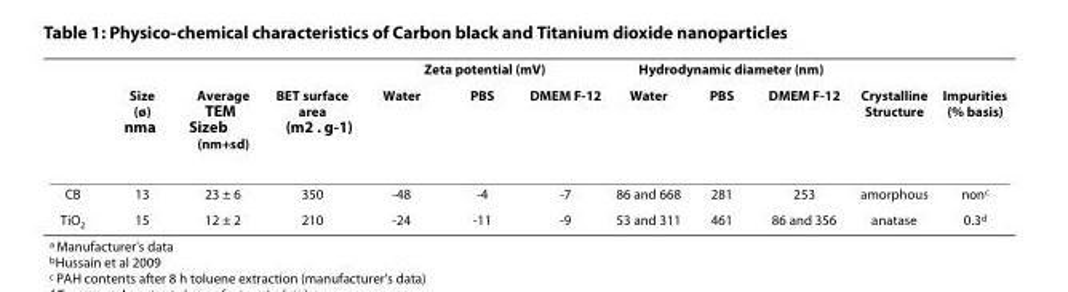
<table><thead><tr><td rowspan="2"></td><td rowspan="2">Size (ø) nm<sup>a</sup></td><td rowspan="2">Average TEM Size<sup>b</sup> (nm+sd)</td><td rowspan="2">BET surface area (m<sup>2</sup> . g<sup>-1</sup>)</td><td colspan="3">Zeta potential (mV)</td><td colspan="3">Hydrodynamic diameter (nm)</td><td rowspan="2">Crystalline Structure</td><td rowspan="2">Impurities (% basis)</td></tr><tr><td>Water</td><td>PBS</td><td>DMEM F-12</td><td>Water</td><td>PBS</td><td>DMEM F-12</td></tr></thead><tbody><tr><td>CB</td><td>13</td><td>23 ± 6</td><td>350</td><td>-48</td><td>-4</td><td>-7</td><td>86 and 668</td><td>281</td><td>253</td><td>amorphous</td><td>non<sup>c</sup></td></tr><tr><td>TiO<sub>2</sub></td><td>15</td><td>12 ± 2</td><td>210</td><td>-24</td><td>-11</td><td>-9</td><td>53 and 311</td><td>461</td><td>86 and 356</td><td>anatase</td><td>0.3<sup>d</sup></td></tr></tbody></table>